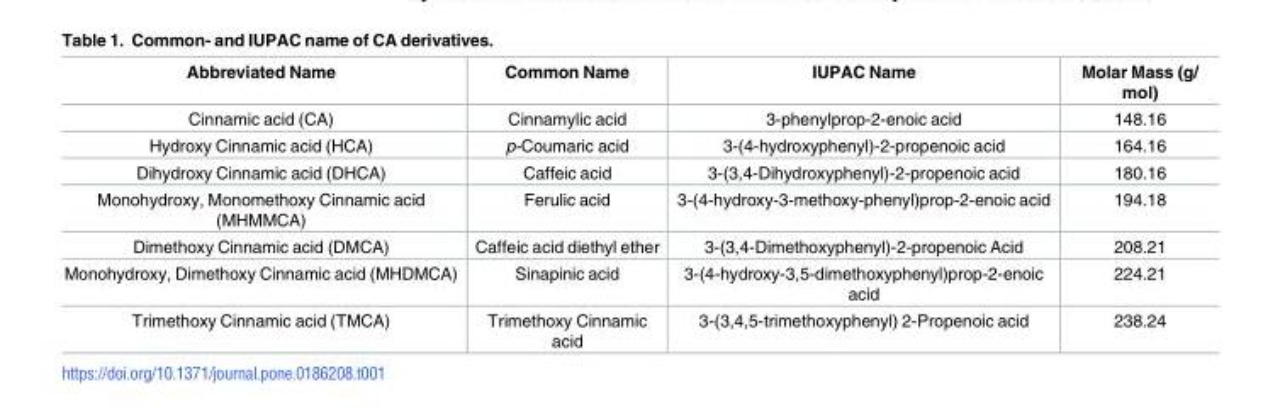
<table><thead><tr><td>Abbreviated Name</td><td>Common Name</td><td>IUPAC Name</td><td>Molar Mass (g/ mol)</td></tr></thead><tbody><tr><td>Cinnamic acid (CA)</td><td>Cinnamylic acid</td><td>3-phenylprop-2-enoic acid</td><td>148.16</td></tr><tr><td>Hydroxy Cinnamic acid (HCA)</td><td>p-Coumaric acid</td><td>3-(4-hydroxyphenyl)-2-propenoic acid</td><td>164.16</td></tr><tr><td>Dihydroxy Cinnamic acid (DHCA)</td><td>Caffeic acid</td><td>3-(3,4-Dihydroxyphenyl)-2-propenoic acid</td><td>180.16</td></tr><tr><td>Monohydroxy, Monomethoxy Cinnamic acid (MHMMCA)</td><td>Ferulic acid</td><td>3-(4-hydroxy-3-methoxy-phenyl)prop-2-enoic acid</td><td>194.18</td></tr><tr><td>Dimethoxy Cinnamic acid (DMCA)</td><td>Caffeic acid diethyl ether</td><td>3-(3,4-Dimethoxyphenyl)-2-propenoic Acid</td><td>208.21</td></tr><tr><td>Monohydroxy, Dimethoxy Cinnamic acid (MHDMCA)</td><td>Sinapinic acid</td><td>3-(4-hydroxy-3,5-dimethoxyphenyl)prop-2-enoic acid</td><td>224.21</td></tr><tr><td>Trimethoxy Cinnamic acid (TMCA)</td><td>Trimethoxy Cinnamic acid</td><td>3-(3,4,5-trimethoxyphenyl) 2-Propenoic acid</td><td>238.24</td></tr></tbody></table>